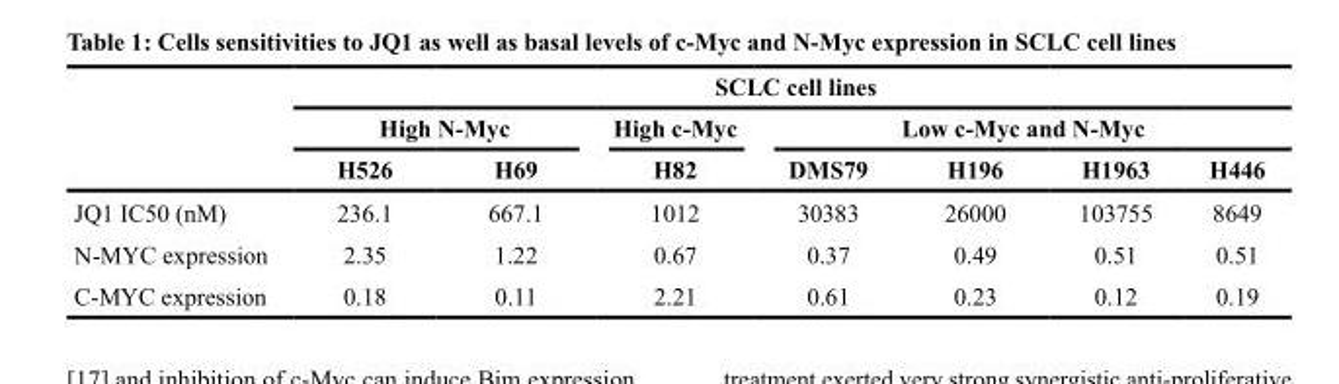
<table><thead><tr><td rowspan="3"></td><td colspan="7">SCLC cell lines</td></tr><tr><td colspan="2">High N-Myc</td><td rowspan="2">High c-Myc H82</td><td colspan="4">Low c-Myc and N-Myc</td></tr><tr><td>H526</td><td>H69</td><td>DMS79</td><td>H196</td><td>H1963</td><td>H446</td></tr></thead><tbody><tr><td>JQ1 IC50 (nM)</td><td>236.1</td><td>667.1</td><td>1012</td><td>30383</td><td>26000</td><td>103755</td><td>8649</td></tr><tr><td>N-MYC expression</td><td>2.35</td><td>1.22</td><td>0.67</td><td>0.37</td><td>0.49</td><td>0.51</td><td>0.51</td></tr><tr><td>C-MYC expression</td><td>0.18</td><td>0.11</td><td>2.21</td><td>0.61</td><td>0.23</td><td>0.12</td><td>0.19</td></tr></tbody></table>